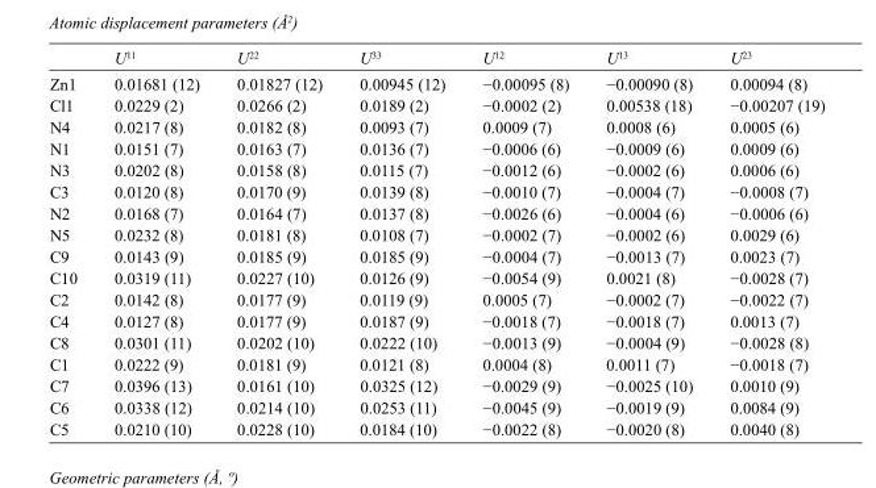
<table><thead><tr><td></td><td>U<sup>11</sup></td><td>U<sup>22</sup></td><td>U<sup>33</sup></td><td>U<sup>12</sup></td><td>U<sup>13</sup></td><td>U<sup>23</sup></td></tr></thead><tbody><tr><td>Zn1</td><td>0.01681 (12)</td><td>0.01827 (12)</td><td>0.00945 (12)</td><td>−0.00095 (8)</td><td>−0.00090 (8)</td><td>0.00094 (8)</td></tr><tr><td>Cl1</td><td>0.0229 (2)</td><td>0.0266 (2)</td><td>0.0189 (2)</td><td>−0.0002 (2)</td><td>0.00538 (18)</td><td>−0.00207 (19)</td></tr><tr><td>N4</td><td>0.0217 (8)</td><td>0.0182 (8)</td><td>0.0093 (7)</td><td>0.0009 (7)</td><td>0.0008 (6)</td><td>0.0005 (6)</td></tr><tr><td>N1</td><td>0.0151 (7)</td><td>0.0163 (7)</td><td>0.0136 (7)</td><td>−0.0006 (6)</td><td>−0.0009 (6)</td><td>0.0009 (6)</td></tr><tr><td>N3</td><td>0.0202 (8)</td><td>0.0158 (8)</td><td>0.0115 (7)</td><td>−0.0012 (6)</td><td>−0.0002 (6)</td><td>0.0006 (6)</td></tr><tr><td>C3</td><td>0.0120 (8)</td><td>0.0170 (9)</td><td>0.0139 (8)</td><td>−0.0010 (7)</td><td>−0.0004 (7)</td><td>−0.0008 (7)</td></tr><tr><td>N2</td><td>0.0168 (7)</td><td>0.0164 (7)</td><td>0.0137 (8)</td><td>−0.0026 (6)</td><td>−0.0004 (6)</td><td>−0.0006 (6)</td></tr><tr><td>N5</td><td>0.0232 (8)</td><td>0.0181 (8)</td><td>0.0108 (7)</td><td>−0.0002 (7)</td><td>−0.0002 (6)</td><td>0.0029 (6)</td></tr><tr><td>C9</td><td>0.0143 (9)</td><td>0.0185 (9)</td><td>0.0185 (9)</td><td>−0.0004 (7)</td><td>−0.0013 (7)</td><td>0.0023 (7)</td></tr><tr><td>C10</td><td>0.0319 (11)</td><td>0.0227 (10)</td><td>0.0126 (9)</td><td>−0.0054 (9)</td><td>0.0021 (8)</td><td>−0.0028 (7)</td></tr><tr><td>C2</td><td>0.0142 (8)</td><td>0.0177 (9)</td><td>0.0119 (9)</td><td>0.0005 (7)</td><td>−0.0002 (7)</td><td>−0.0022 (7)</td></tr><tr><td>C4</td><td>0.0127 (8)</td><td>0.0177 (9)</td><td>0.0187 (9)</td><td>−0.0018 (7)</td><td>−0.0018 (7)</td><td>0.0013 (7)</td></tr><tr><td>C8</td><td>0.0301 (11)</td><td>0.0202 (10)</td><td>0.0222 (10)</td><td>−0.0013 (9)</td><td>−0.0004 (9)</td><td>−0.0028 (8)</td></tr><tr><td>C1</td><td>0.0222 (9)</td><td>0.0181 (9)</td><td>0.0121 (8)</td><td>0.0004 (8)</td><td>0.0011 (7)</td><td>−0.0018 (7)</td></tr><tr><td>C7</td><td>0.0396 (13)</td><td>0.0161 (10)</td><td>0.0325 (12)</td><td>−0.0029 (9)</td><td>−0.0025 (10)</td><td>0.0010 (9)</td></tr><tr><td>C6</td><td>0.0338 (12)</td><td>0.0214 (10)</td><td>0.0253 (11)</td><td>−0.0045 (9)</td><td>−0.0019 (9)</td><td>0.0084 (9)</td></tr><tr><td>C5</td><td>0.0210 (10)</td><td>0.0228 (10)</td><td>0.0184 (10)</td><td>−0.0022 (8)</td><td>−0.0020 (8)</td><td>0.0040 (8)</td></tr></tbody></table>